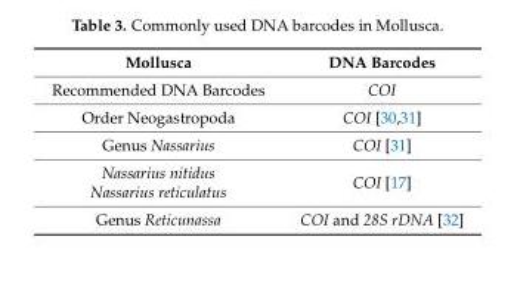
<table><thead><tr><td>Mollusca</td><td>DNA Barcodes</td></tr></thead><tbody><tr><td>Recommended DNA Barcodes</td><td>COI</td></tr><tr><td>Order Neogastropoda</td><td>COI [30,31]</td></tr><tr><td>Genus Nassarius</td><td>COI [31]</td></tr><tr><td>Nassarius nitidus Nassarius reticulatus</td><td>COI [17]</td></tr><tr><td>Genus Reticunassa</td><td>COI and 28S rDNA [32]</td></tr></tbody></table>